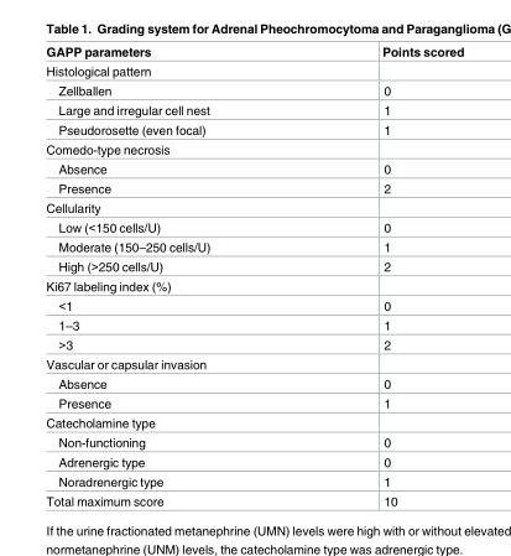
<table><thead><tr><td>GAPP parameters</td><td>Points scored</td></tr></thead><tbody><tr><td colspan="2">Histological pattern</td></tr><tr><td>Zellballen</td><td>0</td></tr><tr><td>Large and irregular cell nest</td><td>1</td></tr><tr><td>Pseudorosette (even focal)</td><td>1</td></tr><tr><td colspan="2">Comedo-type necrosis</td></tr><tr><td>Absence</td><td>0</td></tr><tr><td>Presence</td><td>2</td></tr><tr><td colspan="2">Cellularity</td></tr><tr><td>Low (&lt;150 cells/U)</td><td>0</td></tr><tr><td>Moderate (150–250 cells/U)</td><td>1</td></tr><tr><td>High (&gt;250 cells/U)</td><td>2</td></tr><tr><td colspan="2">Ki67 labeling index (%)</td></tr><tr><td>&lt;1</td><td>0</td></tr><tr><td>1–3</td><td>1</td></tr><tr><td>&gt;3</td><td>2</td></tr><tr><td colspan="2">Vascular or capsular invasion</td></tr><tr><td>Absence</td><td>0</td></tr><tr><td>Presence</td><td>1</td></tr><tr><td colspan="2">Catecholamine type</td></tr><tr><td>Non-functioning</td><td>0</td></tr><tr><td>Adrenergic type</td><td>0</td></tr><tr><td>Noradrenergic type</td><td>1</td></tr><tr><td>Total maximum score</td><td>10</td></tr></tbody></table>